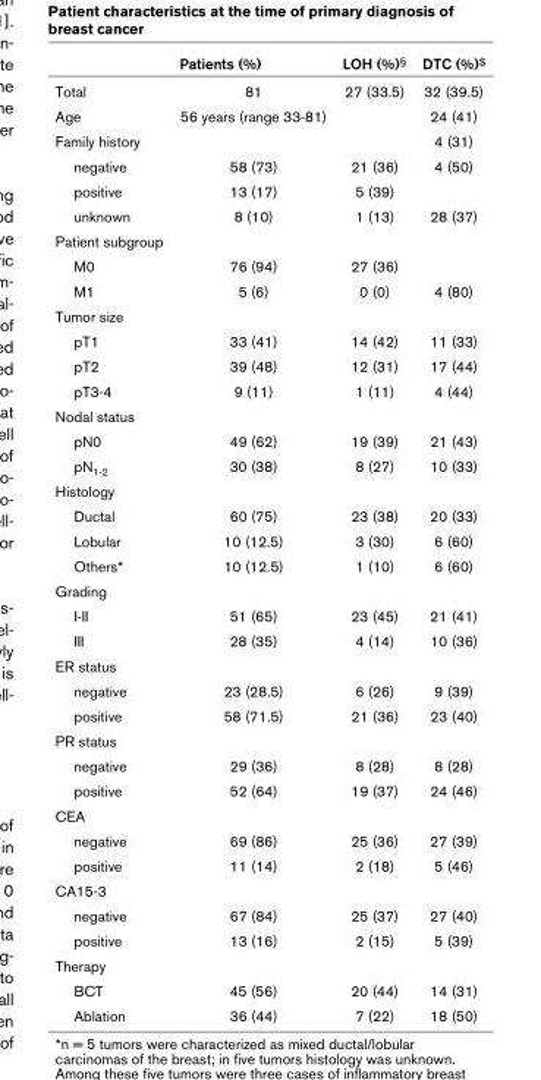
<table><thead><tr><td></td><td>Patients (%)</td><td>LOH (%)<sup>§</sup></td><td>DTC (%)<sup>$</sup></td></tr></thead><tbody><tr><td>Total</td><td>81</td><td>27 (33.5)</td><td>32 (39.5)</td></tr><tr><td>Age</td><td>56 years (range 33-81)</td><td></td><td>24 (41)</td></tr><tr><td>Family history</td><td></td><td></td><td>4 (31)</td></tr><tr><td>negative</td><td>58 (73)</td><td>21 (36)</td><td>4 (50)</td></tr><tr><td>positive</td><td>13 (17)</td><td>5 (39)</td><td></td></tr><tr><td>unknown</td><td>8 (10)</td><td>1 (13)</td><td>28 (37)</td></tr><tr><td colspan="4">Patient subgroup</td></tr><tr><td>M0</td><td>76 (94)</td><td>27 (36)</td><td></td></tr><tr><td>M1</td><td>5 (6)</td><td>0 (0)</td><td>4 (80)</td></tr><tr><td colspan="4">Tumor size</td></tr><tr><td>pT1</td><td>33 (41)</td><td>14 (42)</td><td>11 (33)</td></tr><tr><td>pT2</td><td>39 (48)</td><td>12 (31)</td><td>17 (44)</td></tr><tr><td>pT3-4</td><td>9 (11)</td><td>1 (11)</td><td>4 (44)</td></tr><tr><td colspan="4">Nodal status</td></tr><tr><td>pN0</td><td>49 (62)</td><td>19 (39)</td><td>21 (43)</td></tr><tr><td>pN<sub>1-2</sub></td><td>30 (38)</td><td>8 (27)</td><td>10 (33)</td></tr><tr><td colspan="4">Histology</td></tr><tr><td>Ductal</td><td>60 (75)</td><td>23 (38)</td><td>20 (33)</td></tr><tr><td>Lobular</td><td>10 (12.5)</td><td>3 (30)</td><td>6 (60)</td></tr><tr><td>Others*</td><td>10 (12.5)</td><td>1 (10)</td><td>6 (60)</td></tr><tr><td colspan="4">Grading</td></tr><tr><td>I-II</td><td>51 (65)</td><td>23 (45)</td><td>21 (41)</td></tr><tr><td>III</td><td>28 (35)</td><td>4 (14)</td><td>10 (36)</td></tr><tr><td colspan="4">ER status</td></tr><tr><td>negative</td><td>23 (28.5)</td><td>6 (26)</td><td>9 (39)</td></tr><tr><td>positive</td><td>58 (71.5)</td><td>21 (36)</td><td>23 (40)</td></tr><tr><td colspan="4">PR status</td></tr><tr><td>negative</td><td>29 (36)</td><td>8 (28)</td><td>8 (28)</td></tr><tr><td>positive</td><td>52 (64)</td><td>19 (37)</td><td>24 (46)</td></tr><tr><td colspan="4">CEA</td></tr><tr><td>negative</td><td>69 (86)</td><td>25 (36)</td><td>27 (39)</td></tr><tr><td>positive</td><td>11 (14)</td><td>2 (18)</td><td>5 (46)</td></tr><tr><td colspan="4">CA15-3</td></tr><tr><td>negative</td><td>67 (84)</td><td>25 (37)</td><td>27 (40)</td></tr><tr><td>positive</td><td>13 (16)</td><td>2 (15)</td><td>5 (39)</td></tr><tr><td colspan="4">Therapy</td></tr><tr><td>BCT</td><td>45 (56)</td><td>20 (44)</td><td>14 (31)</td></tr><tr><td>Ablation</td><td>36 (44)</td><td>7 (22)</td><td>18 (50)</td></tr></tbody></table>